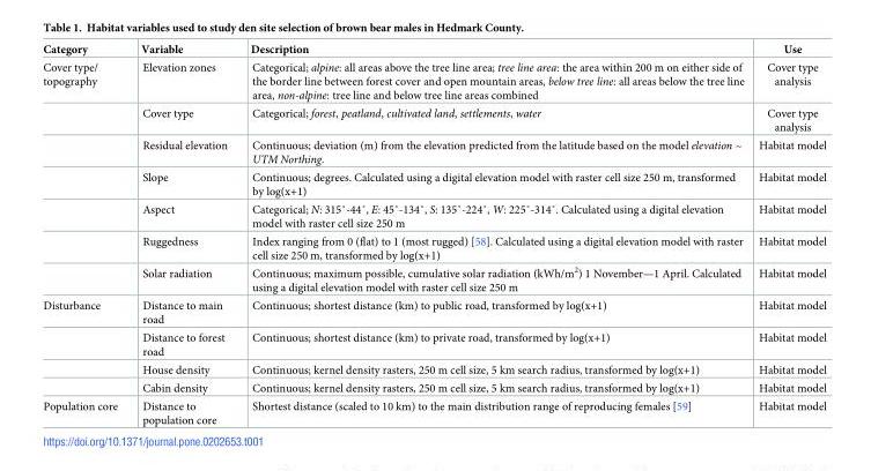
<table><thead><tr><td>Category</td><td>Variable</td><td>Description</td><td>Use</td></tr></thead><tbody><tr><td rowspan="7">Cover type/ topography</td><td>Elevation zones</td><td>Categorical; alpine: all areas above the tree line area; tree line area: the area within 200 m on either side of the border line between forest cover and open mountain areas, below tree line: all areas below the tree line area, non-alpine: tree line and below tree line areas combined</td><td>Cover type analysis</td></tr><tr><td>Cover type</td><td>Categorical; forest, peatland, cultivated land, settlements, water</td><td>Cover type analysis</td></tr><tr><td>Residual elevation</td><td>Continuous; deviation (m) from the elevation predicted from the latitude based on the model elevation ~ UTM Northing.</td><td>Habitat model</td></tr><tr><td>Slope</td><td>Continuous; degrees. Calculated using a digital elevation model with raster cell size 250 m, transformed by log(x+1)</td><td>Habitat model</td></tr><tr><td>Aspect</td><td>Categorical; N: 315˚-44˚, E: 45˚-134˚, S: 135˚-224˚, W: 225˚-314˚. Calculated using a digital elevation model with raster cell size 250 m</td><td>Habitat model</td></tr><tr><td>Ruggedness</td><td>Index ranging from 0 (flat) to 1 (most rugged) [58]. Calculated using a digital elevation model with raster cell size 250 m, transformed by log(x+1)</td><td>Habitat model</td></tr><tr><td>Solar radiation</td><td>Continuous; maximum possible, cumulative solar radiation (kWh/m<sup>2</sup>) 1 November—1 April. Calculated using a digital elevation model with raster cell size 250 m</td><td>Habitat model</td></tr><tr><td rowspan="4">Disturbance</td><td>Distance to main road</td><td>Continuous; shortest distance (km) to public road, transformed by log(x+1)</td><td>Habitat model</td></tr><tr><td>Distance to forest road</td><td>Continuous; shortest distance (km) to private road, transformed by log(x+1)</td><td>Habitat model</td></tr><tr><td>House density</td><td>Continuous; kernel density rasters, 250 m cell size, 5 km search radius, transformed by log(x+1)</td><td>Habitat model</td></tr><tr><td>Cabin density</td><td>Continuous; kernel density rasters, 250 m cell size, 5 km search radius, transformed by log(x+1)</td><td>Habitat model</td></tr><tr><td>Population core</td><td>Distance to population core</td><td>Shortest distance (scaled to 10 km) to the main distribution range of reproducing females [59]</td><td>Habitat model</td></tr></tbody></table>